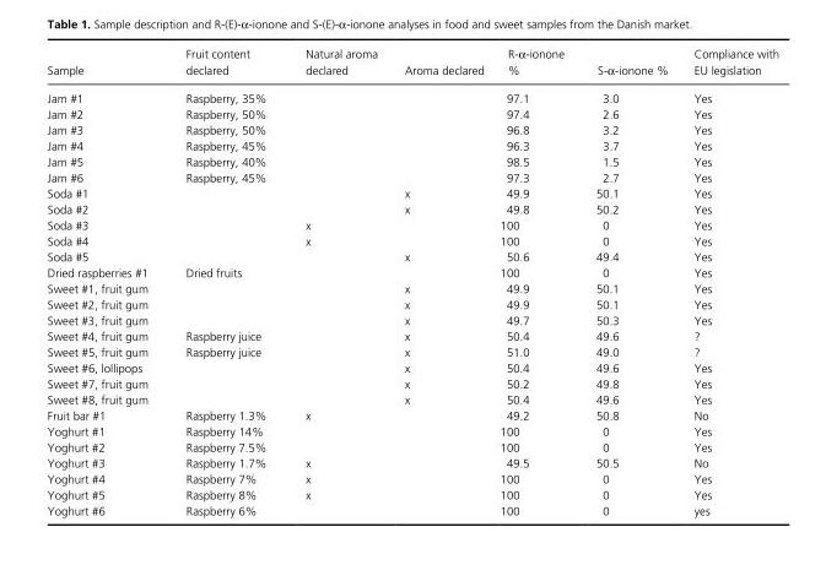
<table><thead><tr><td>Sample</td><td>Fruit content declared</td><td>Natural aroma declared</td><td>Aroma declared</td><td>R- α- ionone %</td><td>S- α- ionone %</td><td>Compliance with EU legislation</td></tr></thead><tbody><tr><td>Jam #1</td><td>Raspberry, 35%</td><td></td><td></td><td>97.1</td><td>3.0</td><td>Yes</td></tr><tr><td>Jam #2</td><td>Raspberry, 50%</td><td></td><td></td><td>97.4</td><td>2.6</td><td>Yes</td></tr><tr><td>Jam #3</td><td>Raspberry, 50%</td><td></td><td></td><td>96.8</td><td>3.2</td><td>Yes</td></tr><tr><td>Jam #4</td><td>Raspberry, 45%</td><td></td><td></td><td>96.3</td><td>3.7</td><td>Yes</td></tr><tr><td>Jam #5</td><td>Raspberry, 40%</td><td></td><td></td><td>98.5</td><td>1.5</td><td>Yes</td></tr><tr><td>Jam #6</td><td>Raspberry, 45%</td><td></td><td></td><td>97.3</td><td>2.7</td><td>Yes</td></tr><tr><td>Soda #1</td><td></td><td></td><td>x</td><td>49.9</td><td>50.1</td><td>Yes</td></tr><tr><td>Soda #2</td><td></td><td></td><td>x</td><td>49.8</td><td>50.2</td><td>Yes</td></tr><tr><td>Soda #3</td><td></td><td>x</td><td></td><td>100</td><td>0</td><td>Yes</td></tr><tr><td>Soda #4</td><td></td><td>x</td><td></td><td>100</td><td>0</td><td>Yes</td></tr><tr><td>Soda #5</td><td></td><td></td><td>x</td><td>50.6</td><td>49.4</td><td>Yes</td></tr><tr><td>Dried raspberries #1</td><td>Dried fruits</td><td></td><td></td><td>100</td><td>0</td><td>Yes</td></tr><tr><td>Sweet #1, fruit gum</td><td></td><td></td><td>x</td><td>49.9</td><td>50.1</td><td>Yes</td></tr><tr><td>Sweet #2, fruit gum</td><td></td><td></td><td>x</td><td>49.9</td><td>50.1</td><td>Yes</td></tr><tr><td>Sweet #3, fruit gum</td><td></td><td></td><td>x</td><td>49.7</td><td>50.3</td><td>Yes</td></tr><tr><td>Sweet #4, fruit gum</td><td>Raspberry juice</td><td></td><td>x</td><td>50.4</td><td>49.6</td><td>?</td></tr><tr><td>Sweet #5, fruit gum</td><td>Raspberry juice</td><td></td><td>x</td><td>51.0</td><td>49.0</td><td>?</td></tr><tr><td>Sweet #6, lollipops</td><td></td><td></td><td>x</td><td>50.4</td><td>49.6</td><td>Yes</td></tr><tr><td>Sweet #7, fruit gum</td><td></td><td></td><td>x</td><td>50.2</td><td>49.8</td><td>Yes</td></tr><tr><td>Sweet #8, fruit gum</td><td></td><td></td><td>x</td><td>50.4</td><td>49.6</td><td>Yes</td></tr><tr><td>Fruit bar #1</td><td>Raspberry 1.3%</td><td>x</td><td></td><td>49.2</td><td>50.8</td><td>No</td></tr><tr><td>Yoghurt #1</td><td>Raspberry 14%</td><td></td><td></td><td>100</td><td>0</td><td>Yes</td></tr><tr><td>Yoghurt #2</td><td>Raspberry 7.5%</td><td></td><td></td><td>100</td><td>0</td><td>Yes</td></tr><tr><td>Yoghurt #3</td><td>Raspberry 1.7%</td><td>x</td><td></td><td>49.5</td><td>50.5</td><td>No</td></tr><tr><td>Yoghurt #4</td><td>Raspberry 7%</td><td>x</td><td></td><td>100</td><td>0</td><td>Yes</td></tr><tr><td>Yoghurt #5</td><td>Raspberry 8%</td><td>x</td><td></td><td>100</td><td>0</td><td>Yes</td></tr><tr><td>Yoghurt #6</td><td>Raspberry 6%</td><td></td><td></td><td>100</td><td>0</td><td>yes</td></tr></tbody></table>